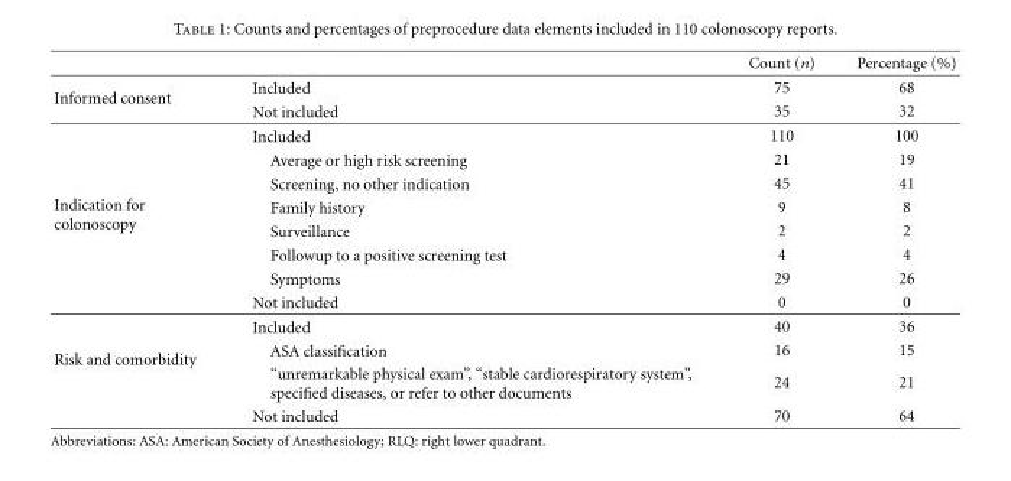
<table><thead><tr><td></td><td></td><td>Count (n)</td><td>Percentage (%)</td></tr></thead><tbody><tr><td rowspan="2">Informed consent</td><td>Included</td><td>75</td><td>68</td></tr><tr><td>Not included</td><td>35</td><td>32</td></tr><tr><td rowspan="8">Indication for colonoscopy</td><td>Included</td><td>110</td><td>100</td></tr><tr><td>Average or high risk screening</td><td>21</td><td>19</td></tr><tr><td>Screening, no other indication</td><td>45</td><td>41</td></tr><tr><td>Family history</td><td>9</td><td>8</td></tr><tr><td>Surveillance</td><td>2</td><td>2</td></tr><tr><td>Followup to a positive screening test</td><td>4</td><td>4</td></tr><tr><td>Symptoms</td><td>29</td><td>26</td></tr><tr><td>Not included</td><td>0</td><td>0</td></tr><tr><td rowspan="4">Risk and comorbidity</td><td>Included</td><td>40</td><td>36</td></tr><tr><td>ASA classification</td><td>16</td><td>15</td></tr><tr><td>“unremarkable physical exam”, “stable cardiorespiratory system”, specified diseases, or refer to other documents</td><td>24</td><td>21</td></tr><tr><td>Not included</td><td>70</td><td>64</td></tr></tbody></table>